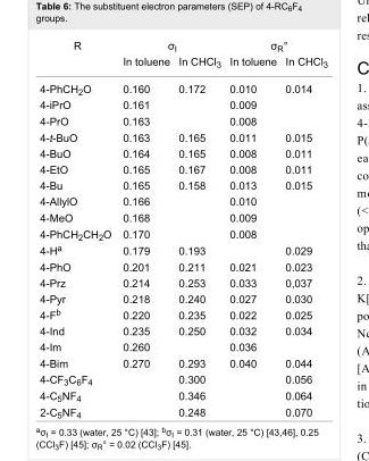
<table><tbody><tr><td rowspan="2">R</td><td colspan="2">σ<sub>I</sub></td><td colspan="2">σ<sub>R</sub>°</td></tr><tr><td>In toluene</td><td>In CHCl<sub>3</sub></td><td>In toluene</td><td>In CHCl<sub>3</sub></td></tr><tr><td>4-PhCH<sub>2</sub>O</td><td>0.160</td><td>0.172</td><td>0.010</td><td>0.014</td></tr><tr><td>4-iPrO</td><td>0.161</td><td></td><td>0.009</td><td></td></tr><tr><td>4-PrO</td><td>0.163</td><td></td><td>0.008</td><td></td></tr><tr><td>4-t-BuO</td><td>0.163</td><td>0.165</td><td>0.011</td><td>0.015</td></tr><tr><td>4-BuO</td><td>0.164</td><td>0.165</td><td>0.008</td><td>0.011</td></tr><tr><td>4-EtO</td><td>0.165</td><td>0.167</td><td>0.008</td><td>0.011</td></tr><tr><td>4-Bu</td><td>0.165</td><td>0.158</td><td>0.013</td><td>0.015</td></tr><tr><td>4-AllylO</td><td>0.166</td><td></td><td>0.010</td><td></td></tr><tr><td>4-MeO</td><td>0.168</td><td></td><td>0.009</td><td></td></tr><tr><td>4-PhCH<sub>2</sub>CH<sub>2</sub>O</td><td>0.170</td><td></td><td>0.008</td><td></td></tr><tr><td>4-H<sup>a</sup></td><td>0.179</td><td>0.193</td><td></td><td>0.029</td></tr><tr><td>4-PhO</td><td>0.201</td><td>0.211</td><td>0.021</td><td>0.023</td></tr><tr><td>4-Prz</td><td>0.214</td><td>0.253</td><td>0.033</td><td>0,037</td></tr><tr><td>4-Pyr</td><td>0.218</td><td>0.240</td><td>0.027</td><td>0.030</td></tr><tr><td>4-F<sup>b</sup></td><td>0.220</td><td>0.235</td><td>0.022</td><td>0.025</td></tr><tr><td>4-Ind</td><td>0.235</td><td>0.250</td><td>0.032</td><td>0.034</td></tr><tr><td>4-Im</td><td>0.260</td><td></td><td>0.036</td><td></td></tr><tr><td>4-Bim</td><td>0.270</td><td>0.293</td><td>0.040</td><td>0.044</td></tr><tr><td>4-CF<sub>3</sub>C<sub>6</sub>F<sub>4</sub></td><td></td><td>0.300</td><td></td><td>0.056</td></tr><tr><td>4-C<sub>5</sub>NF<sub>4</sub></td><td></td><td>0.346</td><td></td><td>0.064</td></tr><tr><td>2-C<sub>5</sub>NF<sub>4</sub></td><td></td><td>0.248</td><td></td><td>0.070</td></tr></tbody></table>